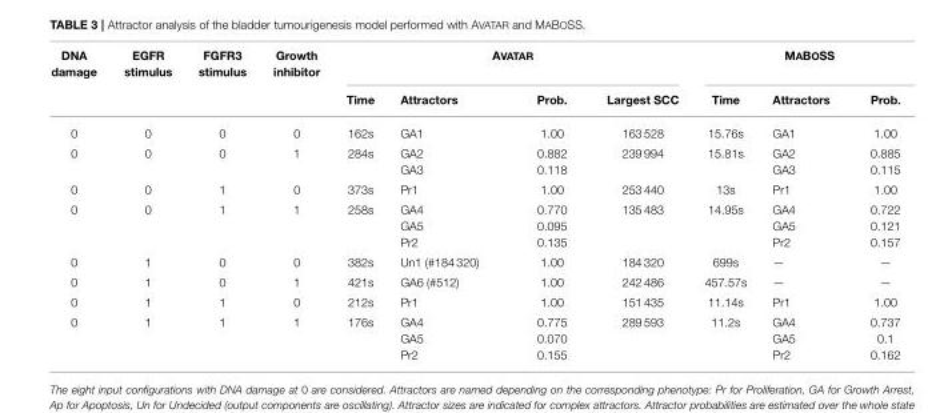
<table><thead><tr><td rowspan="2">DNA damage</td><td rowspan="2">EGFR stimulus</td><td rowspan="2">FGFR3 stimulus</td><td rowspan="2">Growth inhibitor</td><td colspan="4">AVATAR</td><td colspan="3">MABOSS</td></tr><tr><td>Time</td><td>Attractors</td><td>Prob.</td><td>Largest SCC</td><td>Time</td><td>Attractors</td><td>Prob.</td></tr></thead><tbody><tr><td>0</td><td>0</td><td>0</td><td>0</td><td>162s</td><td>GA1</td><td>1.00</td><td>163 528</td><td>15.76s</td><td>GA1</td><td>1.00</td></tr><tr><td>0</td><td>0</td><td>0</td><td>1</td><td>284s</td><td>GA2 GA3</td><td>0.882 0.118</td><td>239 994</td><td>15.81s</td><td>GA2 GA3</td><td>0.885 0.115</td></tr><tr><td>0</td><td>0</td><td>1</td><td>0</td><td>373s</td><td>Pr1</td><td>1.00</td><td>253 440</td><td>13s</td><td>Pr1</td><td>1.00</td></tr><tr><td>0</td><td>0</td><td>1</td><td>1</td><td>258s</td><td>GA4 GA5 Pr2</td><td>0.770 0.095 0.135</td><td>135 483</td><td>14.95s</td><td>GA4 GA5 Pr2</td><td>0.722 0.121 0.157</td></tr><tr><td>0</td><td>1</td><td>0</td><td>0</td><td>382s</td><td>Un1 (#184 320)</td><td>1.00</td><td>184 320</td><td>699s</td><td>—</td><td>—</td></tr><tr><td>0</td><td>1</td><td>0</td><td>1</td><td>421s</td><td>GA6 (#512)</td><td>1.00</td><td>242 486</td><td>457.57s</td><td>—</td><td>—</td></tr><tr><td>0</td><td>1</td><td>1</td><td>0</td><td>212s</td><td>Pr1</td><td>1.00</td><td>151 435</td><td>11.14s</td><td>Pr1</td><td>1.00</td></tr><tr><td>0</td><td>1</td><td>1</td><td>1</td><td>176s</td><td>GA4 GA5 Pr2</td><td>0.775 0.070 0.155</td><td>289 593</td><td>11.2s</td><td>GA4 GA5 Pr2</td><td>0.737 0.1 0.162</td></tr></tbody></table>